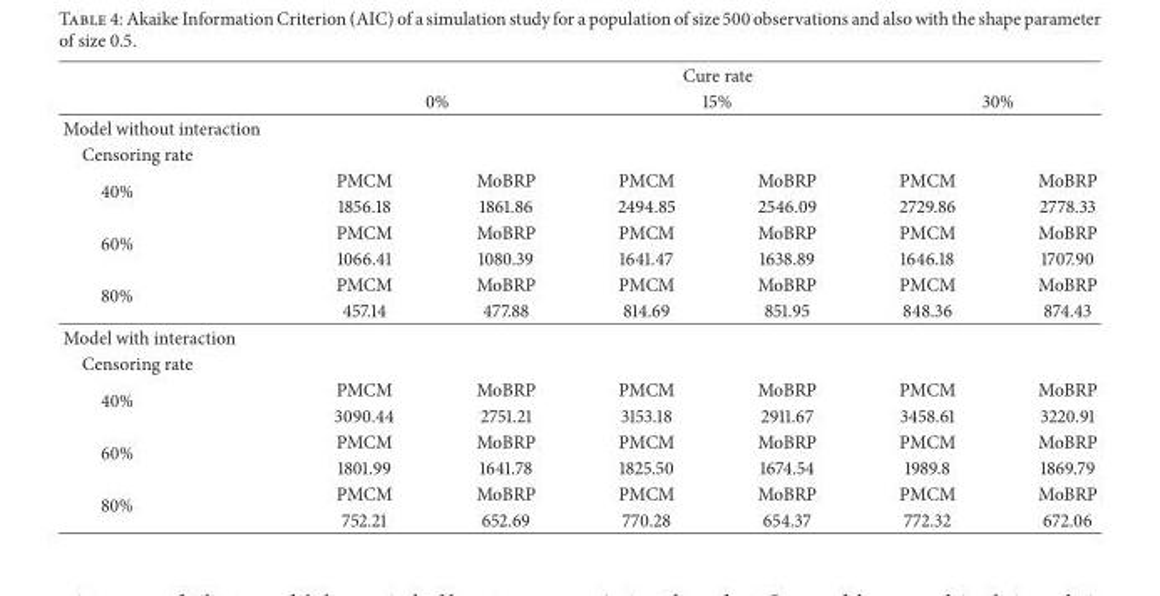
<table><thead><tr><td rowspan="3">Model without interaction</td><td colspan="6">Cure rate</td></tr><tr><td colspan="2">0%</td><td colspan="2">15%</td><td colspan="2">30%</td></tr><tr><td></td><td></td><td></td><td></td><td></td><td></td></tr></thead><tbody><tr><td colspan="7">Censoring rate</td></tr><tr><td rowspan="2">40%</td><td>PMCM</td><td>MoBRP</td><td>PMCM</td><td>MoBRP</td><td>PMCM</td><td>MoBRP</td></tr><tr><td>1856.18</td><td>1861.86</td><td>2494.85</td><td>2546.09</td><td>2729.86</td><td>2778.33</td></tr><tr><td rowspan="2">60%</td><td>PMCM</td><td>MoBRP</td><td>PMCM</td><td>MoBRP</td><td>PMCM</td><td>MoBRP</td></tr><tr><td>1066.41</td><td>1080.39</td><td>1641.47</td><td>1638.89</td><td>1646.18</td><td>1707.90</td></tr><tr><td rowspan="2">80%</td><td>PMCM</td><td>MoBRP</td><td>PMCM</td><td>MoBRP</td><td>PMCM</td><td>MoBRP</td></tr><tr><td>457.14</td><td>477.88</td><td>814.69</td><td>851.95</td><td>848.36</td><td>874.43</td></tr><tr><td colspan="7">Model with interaction</td></tr><tr><td colspan="7">Censoring rate</td></tr><tr><td rowspan="2">40%</td><td>PMCM</td><td>MoBRP</td><td>PMCM</td><td>MoBRP</td><td>PMCM</td><td>MoBRP</td></tr><tr><td>3090.44</td><td>2751.21</td><td>3153.18</td><td>2911.67</td><td>3458.61</td><td>3220.91</td></tr><tr><td rowspan="2">60%</td><td>PMCM</td><td>MoBRP</td><td>PMCM</td><td>MoBRP</td><td>PMCM</td><td>MoBRP</td></tr><tr><td>1801.99</td><td>1641.78</td><td>1825.50</td><td>1674.54</td><td>1989.8</td><td>1869.79</td></tr><tr><td rowspan="2">80%</td><td>PMCM</td><td>MoBRP</td><td>PMCM</td><td>MoBRP</td><td>PMCM</td><td>MoBRP</td></tr><tr><td>752.21</td><td>652.69</td><td>770.28</td><td>654.37</td><td>772.32</td><td>672.06</td></tr></tbody></table>